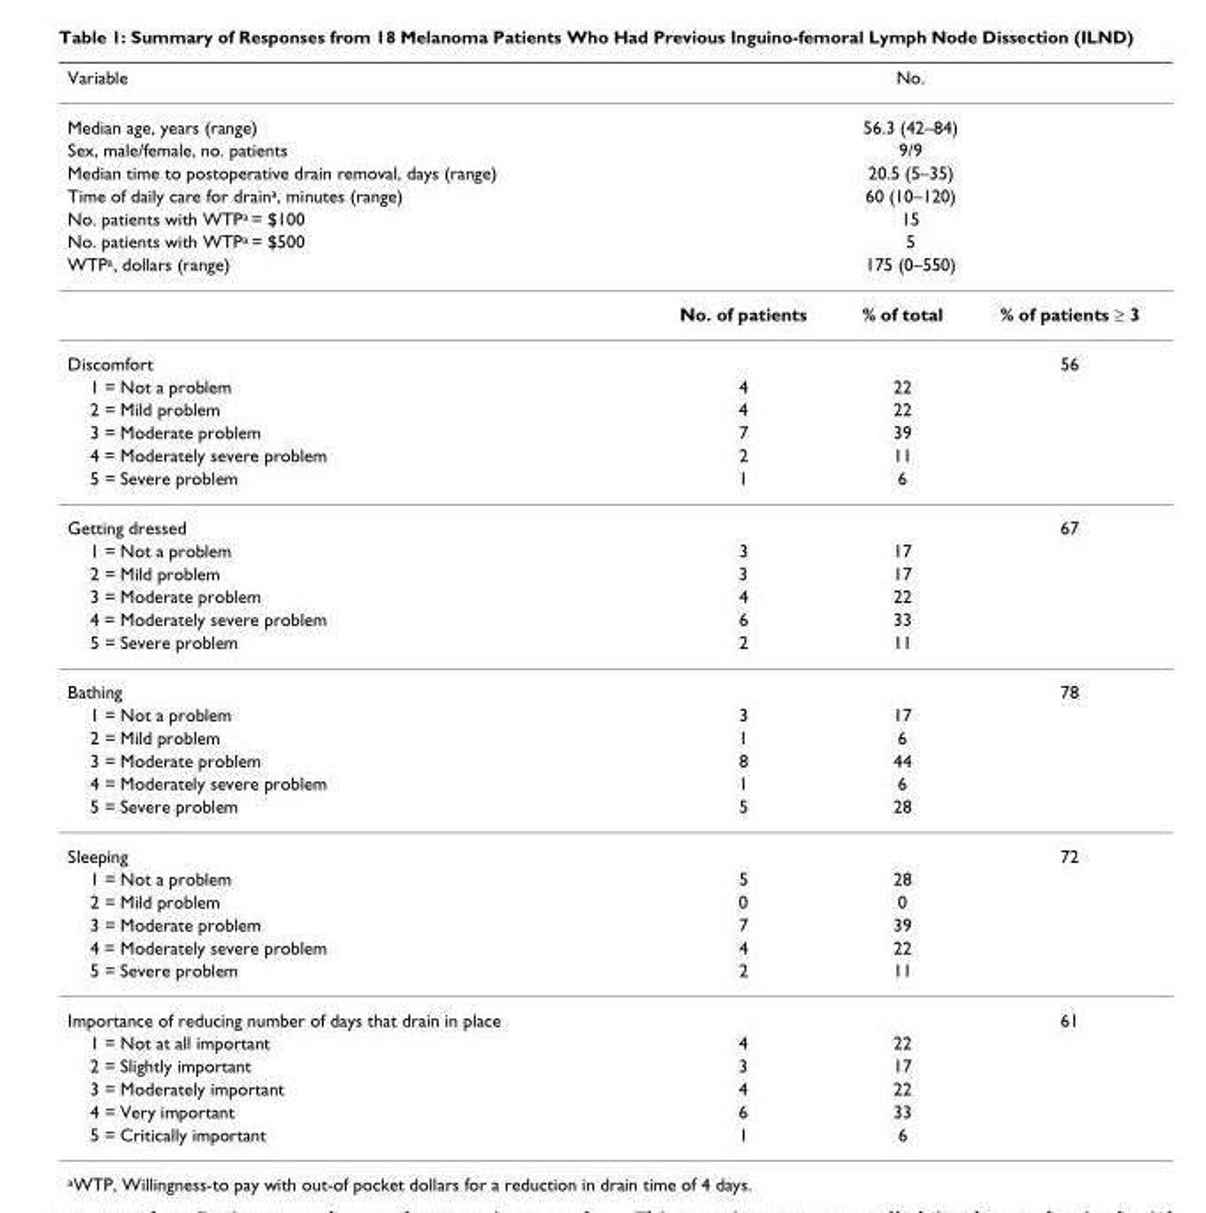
<table><thead><tr><td>Variable</td><td colspan="3">No.</td></tr></thead><tbody><tr><td>Median age, years (range)</td><td colspan="3">56.3 (42–84)</td></tr><tr><td>Sex, male/female, no. patients</td><td colspan="3">9/9</td></tr><tr><td>Median time to postoperative drain removal, days (range)</td><td colspan="3">20.5 (5–35)</td></tr><tr><td>Time of daily care for draina, minutes (range)</td><td colspan="3">60 (10–120)</td></tr><tr><td>No. patients with WTPa = $100</td><td colspan="3">15</td></tr><tr><td>No. patients with WTPa = $500</td><td colspan="3">5</td></tr><tr><td rowspan="2">WTPa, dollars (range)</td><td colspan="3">175 (0–550)</td></tr><tr><td>No. of patients</td><td>% of total</td><td>% of patients ≥ 3</td></tr><tr><td>Discomfort</td><td></td><td></td><td>56</td></tr><tr><td>1 = Not a problem</td><td>4</td><td>22</td><td></td></tr><tr><td>2 = Mild problem</td><td>4</td><td>22</td><td></td></tr><tr><td>3 = Moderate problem</td><td>7</td><td>39</td><td></td></tr><tr><td>4 = Moderately severe problem</td><td>2</td><td>11</td><td></td></tr><tr><td>5 = Severe problem</td><td>1</td><td>6</td><td></td></tr><tr><td>Getting dressed</td><td></td><td></td><td>67</td></tr><tr><td>1 = Not a problem</td><td>3</td><td>17</td><td></td></tr><tr><td>2 = Mild problem</td><td>3</td><td>17</td><td></td></tr><tr><td>3 = Moderate problem</td><td>4</td><td>22</td><td></td></tr><tr><td>4 = Moderately severe problem</td><td>6</td><td>33</td><td></td></tr><tr><td>5 = Severe problem</td><td>2</td><td>11</td><td></td></tr><tr><td>Bathing</td><td></td><td></td><td>78</td></tr><tr><td>1 = Not a problem</td><td>3</td><td>17</td><td></td></tr><tr><td>2 = Mild problem</td><td>1</td><td>6</td><td></td></tr><tr><td>3 = Moderate problem</td><td>8</td><td>44</td><td></td></tr><tr><td>4 = Moderately severe problem</td><td>1</td><td>6</td><td></td></tr><tr><td>5 = Severe problem</td><td>5</td><td>28</td><td></td></tr><tr><td>Sleeping</td><td></td><td></td><td>72</td></tr><tr><td>1 = Not a problem</td><td>5</td><td>28</td><td></td></tr><tr><td>2 = Mild problem</td><td>0</td><td>0</td><td></td></tr><tr><td>3 = Moderate problem</td><td>7</td><td>39</td><td></td></tr><tr><td>4 = Moderately severe problem</td><td>4</td><td>22</td><td></td></tr><tr><td>5 = Severe problem</td><td>2</td><td>11</td><td></td></tr><tr><td>Importance of reducing number of days that drain in place</td><td></td><td></td><td>61</td></tr><tr><td>1 = Not at all important</td><td>4</td><td>22</td><td></td></tr><tr><td>2 = Slightly important</td><td>3</td><td>17</td><td></td></tr><tr><td>3 = Moderately important</td><td>4</td><td>22</td><td></td></tr><tr><td>4 = Very important</td><td>6</td><td>33</td><td></td></tr><tr><td>5 = Critically important</td><td>1</td><td>6</td><td></td></tr></tbody></table>